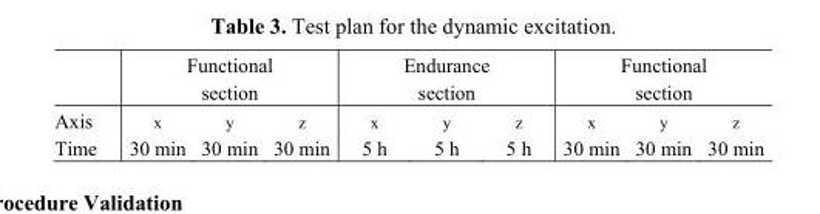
<table><thead><tr><td rowspan="2">Axis</td><td colspan="3">Functional section</td><td colspan="3">Endurance section</td><td colspan="3">Functional section</td></tr><tr><td>x</td><td>y</td><td>z</td><td>x</td><td>y</td><td>z</td><td>x</td><td>y</td><td>z</td></tr></thead><tbody><tr><td>Time</td><td>30 min</td><td>30 min</td><td>30 min</td><td>5 h</td><td>5 h</td><td>5 h</td><td>30 min</td><td>30 min</td><td>30 min</td></tr></tbody></table>